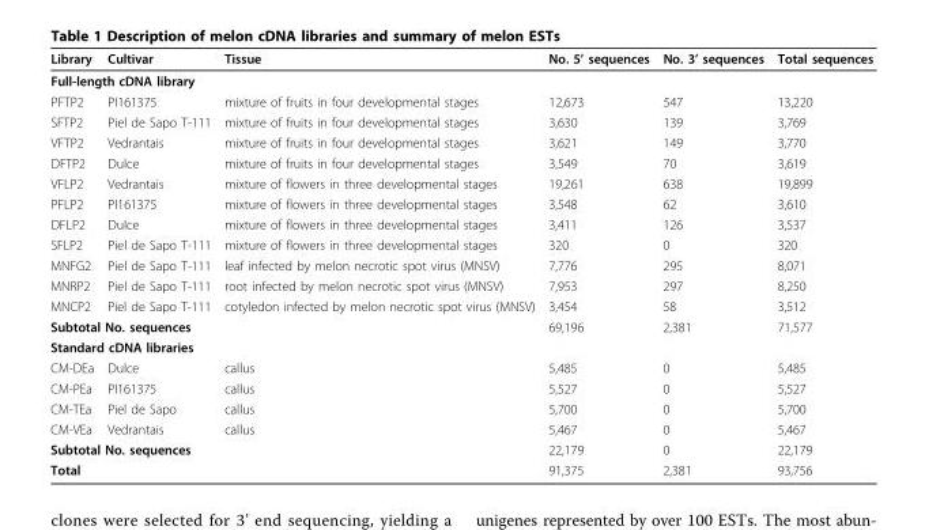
<table><thead><tr><td>Library</td><td>Cultivar</td><td>Tissue</td><td>No. 5’ sequences</td><td>No. 3’ sequences</td><td>Total sequences</td></tr></thead><tbody><tr><td colspan="6">Full-length cDNA library</td></tr><tr><td>PFTP2</td><td>PI161375</td><td>mixture of fruits in four developmental stages</td><td>12,673</td><td>547</td><td>13,220</td></tr><tr><td>SFTP2</td><td>Piel de Sapo T-111</td><td>mixture of fruits in four developmental stages</td><td>3,630</td><td>139</td><td>3,769</td></tr><tr><td>VFTP2</td><td>Vedrantais</td><td>mixture of fruits in four developmental stages</td><td>3,621</td><td>149</td><td>3,770</td></tr><tr><td>DFTP2</td><td>Dulce</td><td>mixture of fruits in four developmental stages</td><td>3,549</td><td>70</td><td>3,619</td></tr><tr><td>VFLP2</td><td>Vedrantais</td><td>mixture of flowers in three developmental stages</td><td>19,261</td><td>638</td><td>19,899</td></tr><tr><td>PFLP2</td><td>PI161375</td><td>mixture of flowers in three developmental stages</td><td>3,548</td><td>62</td><td>3,610</td></tr><tr><td>DFLP2</td><td>Dulce</td><td>mixture of flowers in three developmental stages</td><td>3,411</td><td>126</td><td>3,537</td></tr><tr><td>SFLP2</td><td>Piel de Sapo T-111</td><td>mixture of flowers in three developmental stages</td><td>320</td><td>0</td><td>320</td></tr><tr><td>MNFG2</td><td>Piel de Sapo T-111</td><td>leaf infected by melon necrotic spot virus (MNSV)</td><td>7,776</td><td>295</td><td>8,071</td></tr><tr><td>MNRP2</td><td>Piel de Sapo T-111</td><td>root infected by melon necrotic spot virus (MNSV)</td><td>7,953</td><td>297</td><td>8,250</td></tr><tr><td>MNCP2</td><td>Piel de Sapo T-111</td><td>cotyledon infected by melon necrotic spot virus (MNSV)</td><td>3,454</td><td>58</td><td>3,512</td></tr><tr><td colspan="3">Subtotal No. sequences</td><td>69,196</td><td>2,381</td><td>71,577</td></tr><tr><td colspan="6">Standard cDNA libraries</td></tr><tr><td>CM-DEa</td><td>Dulce</td><td>callus</td><td>5,485</td><td>0</td><td>5,485</td></tr><tr><td>CM-PEa</td><td>PI161375</td><td>callus</td><td>5,527</td><td>0</td><td>5,527</td></tr><tr><td>CM-TEa</td><td>Piel de Sapo</td><td>callus</td><td>5,700</td><td>0</td><td>5,700</td></tr><tr><td>CM-VEa</td><td>Vedrantais</td><td>callus</td><td>5,467</td><td>0</td><td>5,467</td></tr><tr><td colspan="3">Subtotal No. sequences</td><td>22,179</td><td>0</td><td>22,179</td></tr><tr><td>Total</td><td></td><td></td><td>91,375</td><td>2,381</td><td>93,756</td></tr></tbody></table>